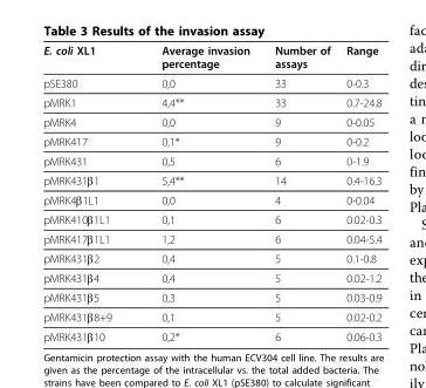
<table><thead><tr><td>E. coli XL1</td><td>Average invasion percentage</td><td>Number of assays</td><td>Range</td></tr></thead><tbody><tr><td>pSE380</td><td>0,0</td><td>33</td><td>0-0.3</td></tr><tr><td>pMRK1</td><td>4,4**</td><td>33</td><td>0.7-24.8</td></tr><tr><td>pMRK4</td><td>0,0</td><td>9</td><td>0-0.05</td></tr><tr><td>pMRK417</td><td>0,1*</td><td>9</td><td>0-0.2</td></tr><tr><td>pMRK431</td><td>0,5</td><td>6</td><td>0-1.9</td></tr><tr><td>pMRK431β1</td><td>5,4**</td><td>14</td><td>0.4-16.3</td></tr><tr><td>pMRK4β1L1</td><td>0,0</td><td>4</td><td>0-0.04</td></tr><tr><td>pMRK410β1L1</td><td>0,1</td><td>6</td><td>0.02-0.3</td></tr><tr><td>pMRK417β1L1</td><td>1,2</td><td>6</td><td>0.04-5.4</td></tr><tr><td>pMRK431β2</td><td>0,4</td><td>5</td><td>0.1-0.8</td></tr><tr><td>pMRK431β4</td><td>0,4</td><td>5</td><td>0.02-1.2</td></tr><tr><td>pMRK431β5</td><td>0,3</td><td>5</td><td>0.03-0.9</td></tr><tr><td>pMRK431β8+9</td><td>0,1</td><td>5</td><td>0.02-0.2</td></tr><tr><td>pMRK431β10</td><td>0,2*</td><td>6</td><td>0.06-0.3</td></tr></tbody></table>